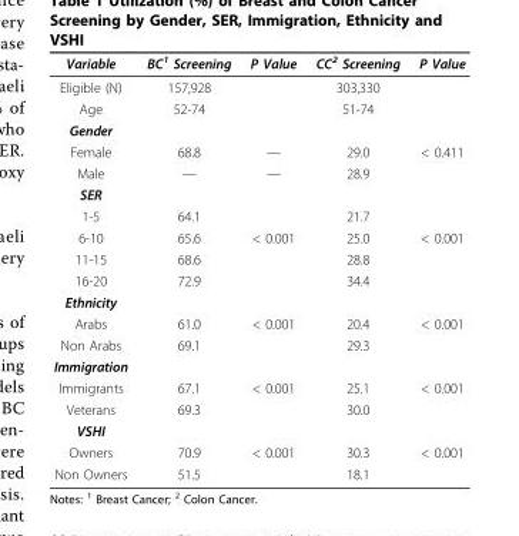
<table><thead><tr><td>Variable</td><td>BC<sup>1</sup> Screening</td><td>P Value</td><td>CC<sup>2</sup> Screening</td><td>P Value</td></tr></thead><tbody><tr><td>Eligible (N)</td><td>157,928</td><td></td><td>303,330</td><td></td></tr><tr><td>Age</td><td>52-74</td><td></td><td>51-74</td><td></td></tr><tr><td colspan="5">Gender</td></tr><tr><td>Female</td><td>68.8</td><td>—</td><td>29.0</td><td>&lt; 0.411</td></tr><tr><td>Male</td><td>—</td><td>—</td><td>28.9</td><td></td></tr><tr><td colspan="5">SER</td></tr><tr><td>1-5</td><td>64.1</td><td></td><td>21.7</td><td></td></tr><tr><td>6-10</td><td>65.6</td><td>&lt; 0.001</td><td>25.0</td><td>&lt; 0.001</td></tr><tr><td>11-15</td><td>68.6</td><td></td><td>28.8</td><td></td></tr><tr><td>16-20</td><td>72.9</td><td></td><td>34.4</td><td></td></tr><tr><td colspan="5">Ethnicity</td></tr><tr><td>Arabs</td><td>61.0</td><td>&lt; 0.001</td><td>20.4</td><td>&lt; 0.001</td></tr><tr><td>Non Arabs</td><td>69.1</td><td></td><td>29.3</td><td></td></tr><tr><td colspan="5">Immigration</td></tr><tr><td>Immigrants</td><td>67.1</td><td>&lt; 0.001</td><td>25.1</td><td>&lt; 0.001</td></tr><tr><td>Veterans</td><td>69.3</td><td></td><td>30.0</td><td></td></tr><tr><td colspan="5">VSHI</td></tr><tr><td>Owners</td><td>70.9</td><td>&lt; 0.001</td><td>30.3</td><td>&lt; 0.001</td></tr><tr><td>Non Owners</td><td>51.5</td><td></td><td>18.1</td><td></td></tr></tbody></table>